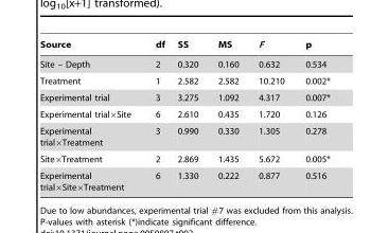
<table><thead><tr><td>Source</td><td>df</td><td>SS</td><td>MS</td><td>F</td><td>p</td></tr></thead><tbody><tr><td>Site – Depth</td><td>2</td><td>0.320</td><td>0.160</td><td>0.632</td><td>0.534</td></tr><tr><td>Treatment</td><td>1</td><td>2.582</td><td>2.582</td><td>10.210</td><td>0.002*</td></tr><tr><td>Experimental trial</td><td>3</td><td>3.275</td><td>1.092</td><td>4.317</td><td>0.007*</td></tr><tr><td>Experimental trial×Site</td><td>6</td><td>2.610</td><td>0.435</td><td>1.720</td><td>0.126</td></tr><tr><td>Experimental trial×Treatment</td><td>3</td><td>0.990</td><td>0.330</td><td>1.305</td><td>0.278</td></tr><tr><td>Site×Treatment</td><td>2</td><td>2.869</td><td>1.435</td><td>5.672</td><td>0.005*</td></tr><tr><td>Experimental trial×Site×Treatment</td><td>6</td><td>1.330</td><td>0.222</td><td>0.877</td><td>0.516</td></tr></tbody></table>